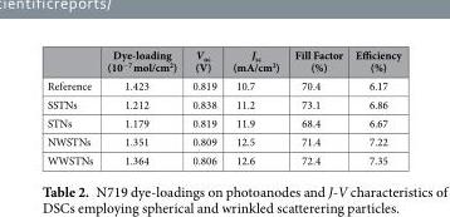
<table><thead><tr><td></td><td>Dye-loading (10<sup>−7</sup> mol/cm<sup>2</sup>)</td><td>Voc (V)</td><td>Jsc (mA/cm2)</td><td>Fill Factor (%)</td><td>Efficiency (%)</td></tr></thead><tbody><tr><td>Reference</td><td>1.423</td><td>0.819</td><td>10.7</td><td>70.4</td><td>6.17</td></tr><tr><td>SSTNs</td><td>1.212</td><td>0.838</td><td>11.2</td><td>73.1</td><td>6.86</td></tr><tr><td>STNs</td><td>1.179</td><td>0.819</td><td>11.9</td><td>68.4</td><td>6.67</td></tr><tr><td>NWSTNs</td><td>1.351</td><td>0.809</td><td>12.5</td><td>71.4</td><td>7.22</td></tr><tr><td>WWSTNs</td><td>1.364</td><td>0.806</td><td>12.6</td><td>72.4</td><td>7.35</td></tr></tbody></table>